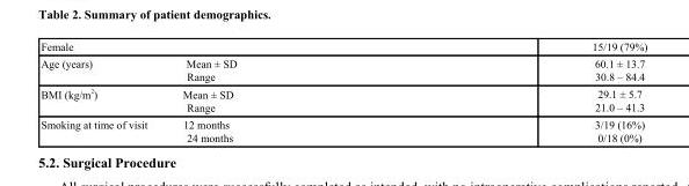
<table><tbody><tr><td>Female</td><td>15/19 (79%)</td></tr><tr><td>Age (years) Mean ± SD Range</td><td>60.1 ± 13.7 30.8 – 84.4</td></tr><tr><td>BMI (kg/m <sup>2</sup>) Mean ± SD Range</td><td>29.1 ± 5.7 21.0 – 41.3</td></tr><tr><td>Smoking at time of visit 12 months 24 months</td><td>3/19 (16%) 0/18 (0%)</td></tr></tbody></table>